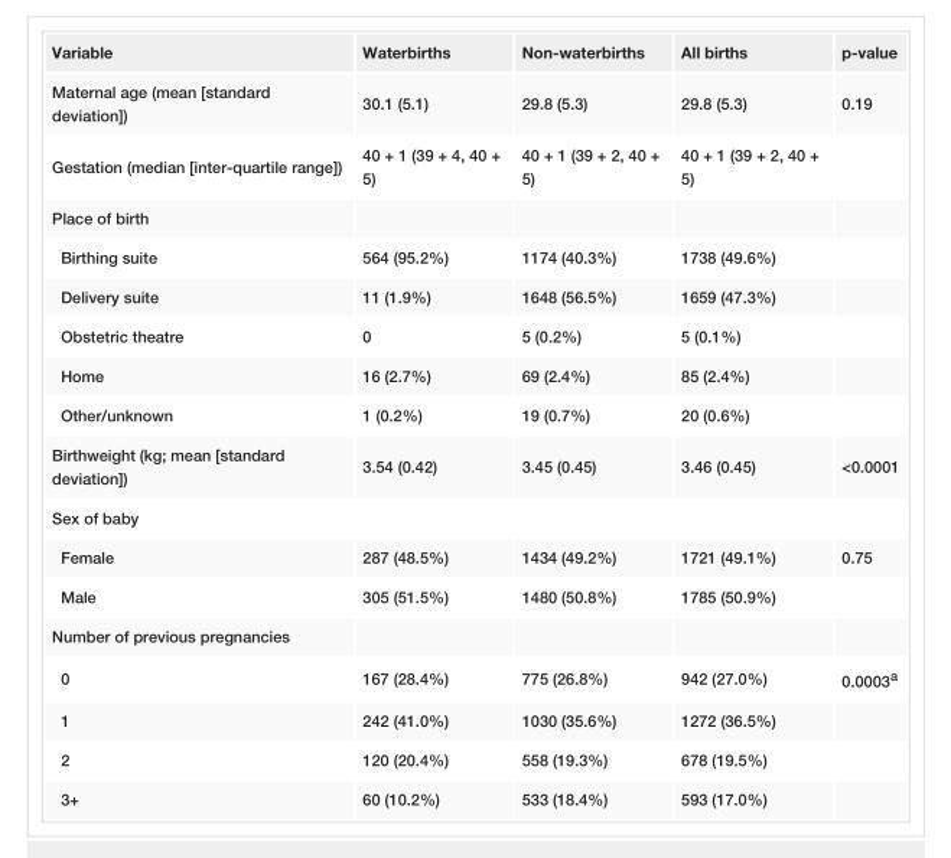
<table><tbody><tr><td>Variable</td><td>Waterbirths</td><td>Non-waterbirths</td><td>All births</td><td>p-value</td></tr><tr><td>Maternal age (mean [standard deviation])</td><td>30.1 (5.1)</td><td>29.8 (5.3)</td><td>29.8 (5.3)</td><td>0.19</td></tr><tr><td>Gestation (median [inter-quartile range])</td><td>40 + 1 (39 + 4, 40 + 5)</td><td>40 + 1 (39 + 2, 40 + 5)</td><td>40 + 1 (39 + 2, 40 + 5)</td><td></td></tr><tr><td colspan="5">Place of birth</td></tr><tr><td>Birthing suite</td><td>564 (95.2%)</td><td>1174 (40.3%)</td><td>1738 (49.6%)</td><td></td></tr><tr><td>Delivery suite</td><td>11 (1.9%)</td><td>1648 (56.5%)</td><td>1659 (47.3%)</td><td></td></tr><tr><td>Obstetric theatre</td><td>0</td><td>5 (0.2%)</td><td>5 (0.1%)</td><td></td></tr><tr><td>Home</td><td>16 (2.7%)</td><td>69 (2.4%)</td><td>85 (2.4%)</td><td></td></tr><tr><td>Other/unknown</td><td>1 (0.2%)</td><td>19 (0.7%)</td><td>20 (0.6%)</td><td></td></tr><tr><td>Birthweight (kg; mean [standard deviation])</td><td>3.54 (0.42)</td><td>3.45 (0.45)</td><td>3.46 (0.45)</td><td>&lt;0.0001</td></tr><tr><td colspan="5">Sex of baby</td></tr><tr><td>Female</td><td>287 (48.5%)</td><td>1434 (49.2%)</td><td>1721 (49.1%)</td><td>0.75</td></tr><tr><td>Male</td><td>305 (51.5%)</td><td>1480 (50.8%)</td><td>1785 (50.9%)</td><td></td></tr><tr><td colspan="5">Number of previous pregnancies</td></tr><tr><td>0</td><td>167 (28.4%)</td><td>775 (26.8%)</td><td>942 (27.0%)</td><td>0.0003<sup>a</sup></td></tr><tr><td>1</td><td>242 (41.0%)</td><td>1030 (35.6%)</td><td>1272 (36.5%)</td><td></td></tr><tr><td>2</td><td>120 (20.4%)</td><td>558 (19.3%)</td><td>678 (19.5%)</td><td></td></tr><tr><td>3+</td><td>60 (10.2%)</td><td>533 (18.4%)</td><td>593 (17.0%)</td><td></td></tr></tbody></table>